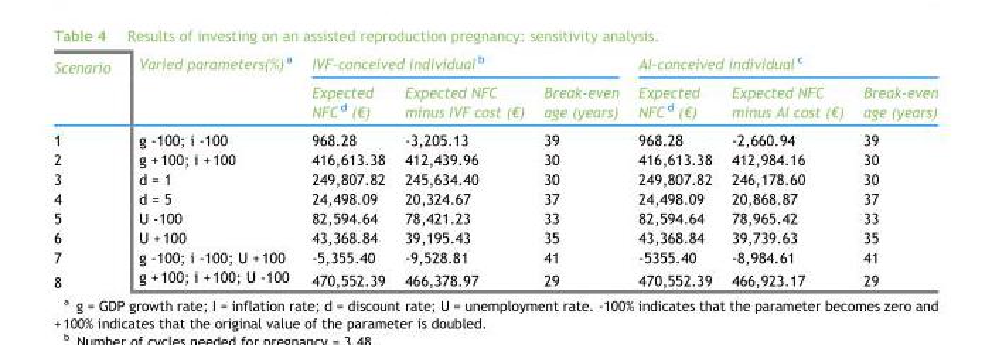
<table><thead><tr><td rowspan="2">Scenario</td><td rowspan="2">Varied parameters(%) <sup>a</sup></td><td colspan="3">IVF-conceived individual <sup>b</sup></td><td colspan="3">AI-conceived individual <sup>c</sup></td></tr><tr><td>Expected NFC <sup>d</sup> (€)</td><td>Expected NFC minus IVF cost (€)</td><td>Break-even age (years)</td><td>Expected NFC <sup>d</sup> (€)</td><td>Expected NFC minus AI cost (€)</td><td>Break-even age (years)</td></tr></thead><tbody><tr><td>1</td><td>g -100; i -100</td><td>968.28</td><td>-3,205.13</td><td>39</td><td>968.28</td><td>-2,660.94</td><td>39</td></tr><tr><td>2</td><td>g +100; i +100</td><td>416,613.38</td><td>412,439.96</td><td>30</td><td>416,613.38</td><td>412,984.16</td><td>30</td></tr><tr><td>3</td><td>d = 1</td><td>249,807.82</td><td>245,634.40</td><td>30</td><td>249,807.82</td><td>246,178.60</td><td>30</td></tr><tr><td>4</td><td>d = 5</td><td>24,498.09</td><td>20,324.67</td><td>37</td><td>24,498.09</td><td>20,868.87</td><td>37</td></tr><tr><td>5</td><td>U -100</td><td>82,594.64</td><td>78,421.23</td><td>33</td><td>82,594.64</td><td>78,965.42</td><td>33</td></tr><tr><td>6</td><td>U +100</td><td>43,368.84</td><td>39,195.43</td><td>35</td><td>43,368.84</td><td>39,739.63</td><td>35</td></tr><tr><td>7</td><td>g -100; i -100; U +100</td><td>-5,355.40</td><td>-9,528.81</td><td>41</td><td>-5355.40</td><td>-8,984.61</td><td>41</td></tr><tr><td>8</td><td>g +100; i +100; U -100</td><td>470,552.39</td><td>466,378.97</td><td>29</td><td>470,552.39</td><td>466,923.17</td><td>29</td></tr></tbody></table>